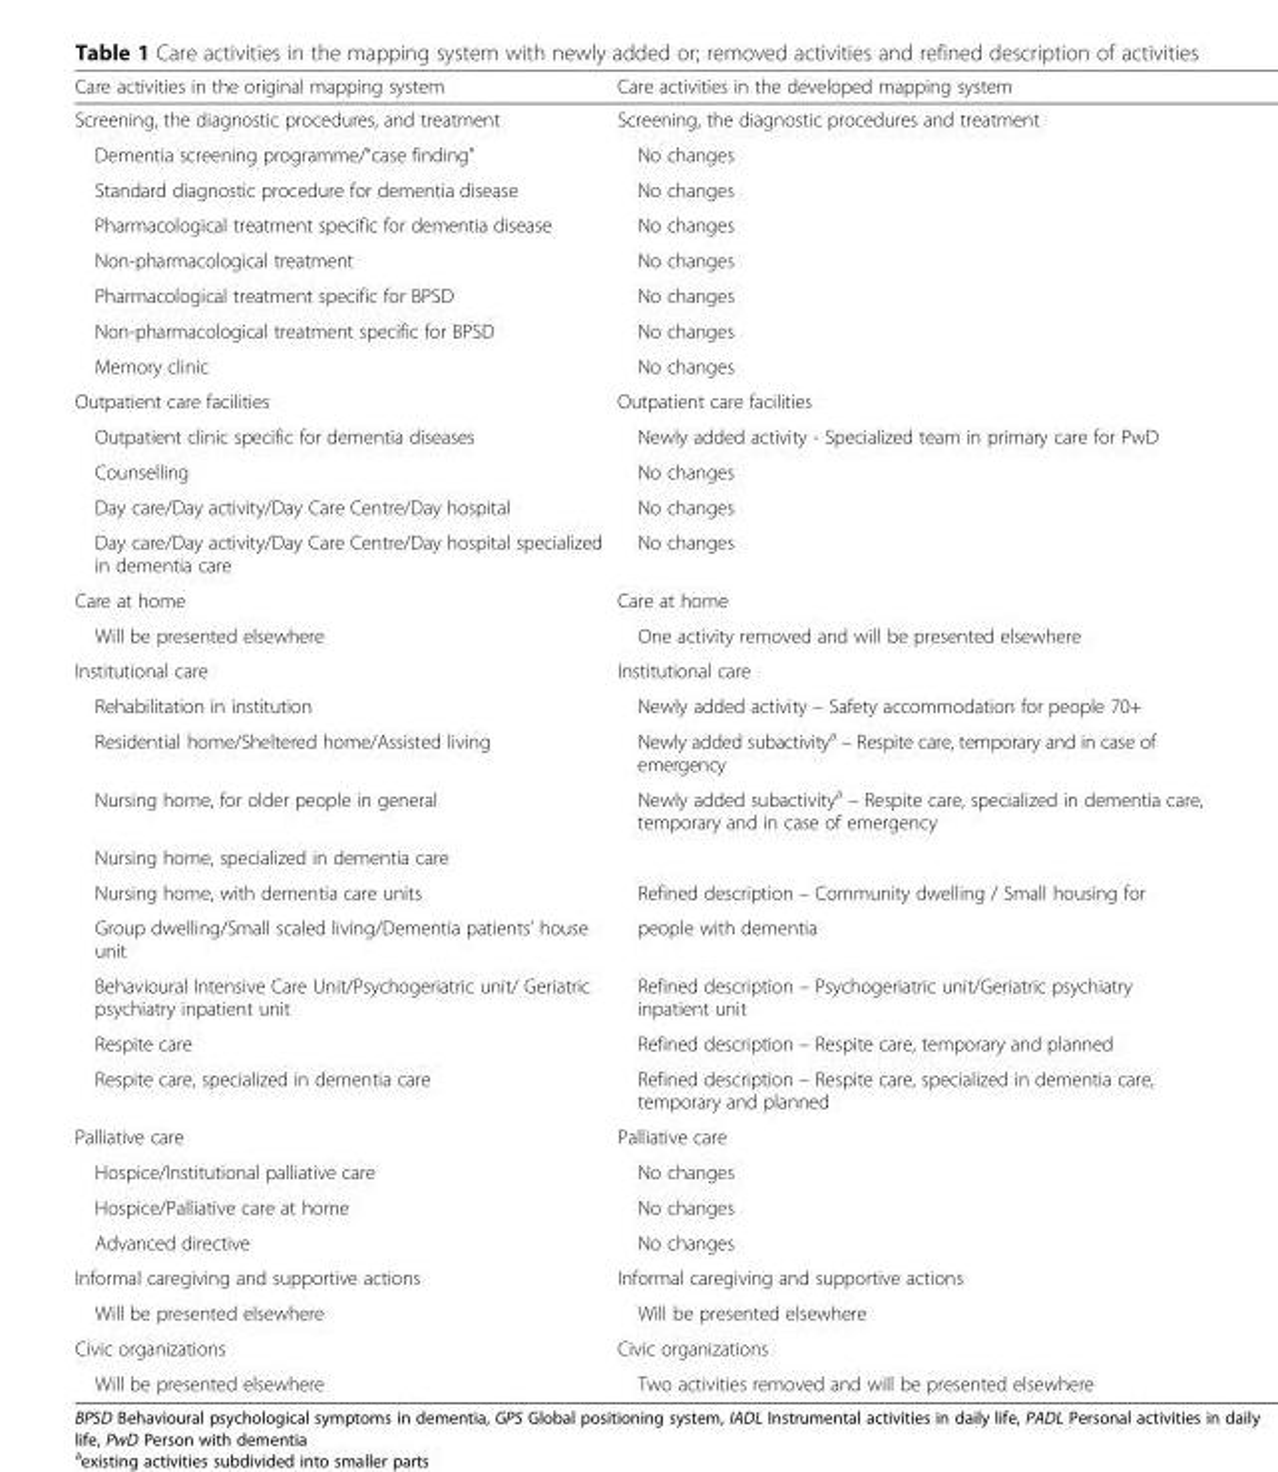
<table><thead><tr><td>Care activities in the original mapping system</td><td>Care activities in the developed mapping system</td></tr></thead><tbody><tr><td>Screening, the diagnostic procedures, and treatment</td><td>Screening, the diagnostic procedures and treatment</td></tr><tr><td>Dementia screening programme/“case finding”</td><td>No changes</td></tr><tr><td>Standard diagnostic procedure for dementia disease</td><td>No changes</td></tr><tr><td>Pharmacological treatment specific for dementia disease</td><td>No changes</td></tr><tr><td>Non-pharmacological treatment</td><td>No changes</td></tr><tr><td>Pharmacological treatment specific for BPSD</td><td>No changes</td></tr><tr><td>Non-pharmacological treatment specific for BPSD</td><td>No changes</td></tr><tr><td>Memory clinic</td><td>No changes</td></tr><tr><td>Outpatient care facilities</td><td>Outpatient care facilities</td></tr><tr><td>Outpatient clinic specific for dementia diseases</td><td>Newly added activity - Specialized team in primary care for PwD</td></tr><tr><td>Counselling</td><td>No changes</td></tr><tr><td>Day care/Day activity/Day Care Centre/Day hospital</td><td>No changes</td></tr><tr><td>Day care/Day activity/Day Care Centre/Day hospital specialized in dementia care</td><td>No changes</td></tr><tr><td>Care at home</td><td>Care at home</td></tr><tr><td>Will be presented elsewhere</td><td>One activity removed and will be presented elsewhere</td></tr><tr><td>Institutional care</td><td>Institutional care</td></tr><tr><td>Rehabilitation in institution</td><td>Newly added activity – Safety accommodation for people 70+</td></tr><tr><td>Residential home/Sheltered home/Assisted living</td><td>Newly added subactivity<sup>a</sup> – Respite care, temporary and in case of emergency</td></tr><tr><td>Nursing home, for older people in general</td><td>Newly added subactivity<sup>a</sup> – Respite care, specialized in dementia care, temporary and in case of emergency</td></tr><tr><td colspan="2">Nursing home, specialized in dementia care</td></tr><tr><td>Nursing home, with dementia care units</td><td>Refined description – Community dwelling / Small housing for</td></tr><tr><td>Group dwelling/Small scaled living/Dementia patients’ house unit</td><td>people with dementia</td></tr><tr><td>Behavioural Intensive Care Unit/Psychogeriatric unit/ Geriatric psychiatry inpatient unit</td><td>Refined description – Psychogeriatric unit/Geriatric psychiatry inpatient unit</td></tr><tr><td>Respite care</td><td>Refined description – Respite care, temporary and planned</td></tr><tr><td>Respite care, specialized in dementia care</td><td>Refined description – Respite care, specialized in dementia care, temporary and planned</td></tr><tr><td>Palliative care</td><td>Palliative care</td></tr><tr><td>Hospice/Institutional palliative care</td><td>No changes</td></tr><tr><td>Hospice/Palliative care at home</td><td>No changes</td></tr><tr><td>Advanced directive</td><td>No changes</td></tr><tr><td>Informal caregiving and supportive actions</td><td>Informal caregiving and supportive actions</td></tr><tr><td>Will be presented elsewhere</td><td>Will be presented elsewhere</td></tr><tr><td>Civic organizations</td><td>Civic organizations</td></tr><tr><td>Will be presented elsewhere</td><td>Two activities removed and will be presented elsewhere</td></tr></tbody></table>